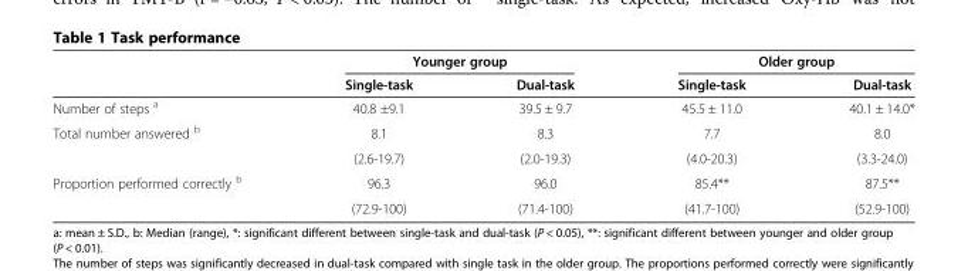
<table><thead><tr><td rowspan="2"></td><td colspan="2">Younger group</td><td colspan="2">Older group</td></tr><tr><td>Single-task</td><td>Dual-task</td><td>Single-task</td><td>Dual-task</td></tr></thead><tbody><tr><td>Number of steps <sup>a</sup></td><td>40.8 ±9.1</td><td>39.5 ± 9.7</td><td>45.5 ± 11.0</td><td>40.1 ± 14.0*</td></tr><tr><td rowspan="2">Total number answered <sup>b</sup></td><td>8.1</td><td>8.3</td><td>7.7</td><td>8.0</td></tr><tr><td>(2.6-19.7)</td><td>(2.0-19.3)</td><td>(4.0-20.3)</td><td>(3.3-24.0)</td></tr><tr><td rowspan="2">Proportion performed correctly <sup>b</sup></td><td>96.3</td><td>96.0</td><td>85.4**</td><td>87.5**</td></tr><tr><td>(72.9-100)</td><td>(71.4-100)</td><td>(41.7-100)</td><td>(52.9-100)</td></tr></tbody></table>